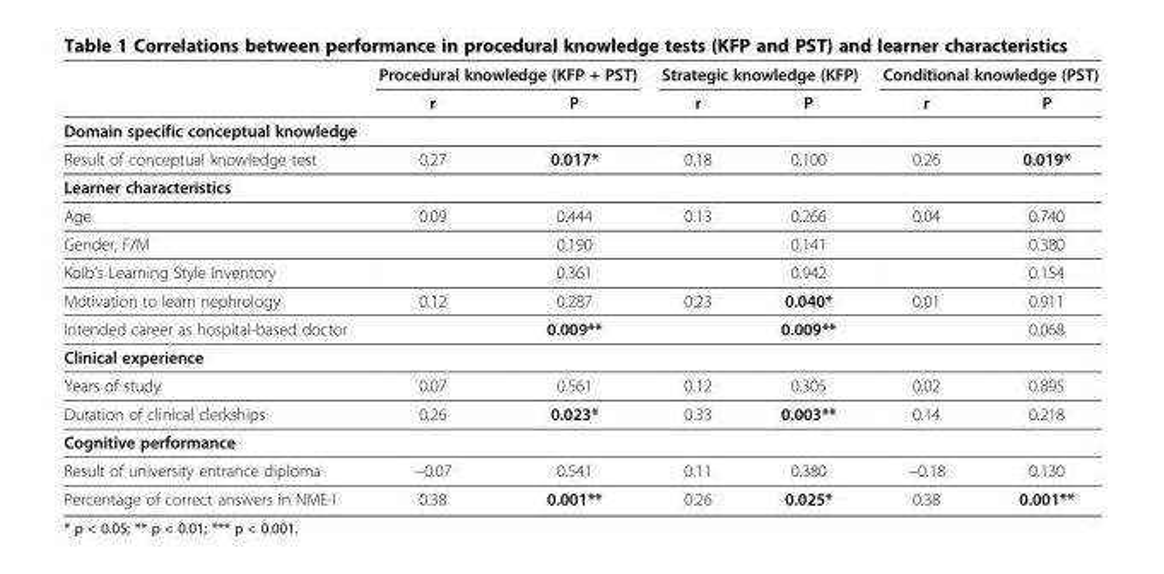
<table><thead><tr><td rowspan="2"></td><td colspan="2">Procedural knowledge (KFP + PST)</td><td colspan="2">Strategic knowledge (KFP)</td><td colspan="2">Conditional knowledge (PST)</td></tr><tr><td>r</td><td>P</td><td>r</td><td>P</td><td>r</td><td>P</td></tr></thead><tbody><tr><td colspan="7">Domain specific conceptual knowledge</td></tr><tr><td>Result of conceptual knowledge test</td><td>0.27</td><td>0.017*</td><td>0.18</td><td>0.100</td><td>0.26</td><td>0.019*</td></tr><tr><td colspan="7">Learner characteristics</td></tr><tr><td>Age</td><td>0.09</td><td>0.444</td><td>0.13</td><td>0.266</td><td>0.04</td><td>0.740</td></tr><tr><td>Gender, F/M</td><td></td><td>0.190</td><td></td><td>0.141</td><td></td><td>0.380</td></tr><tr><td>Kolb’s Learning Style Inventory</td><td></td><td>0.361</td><td></td><td>0.942</td><td></td><td>0.154</td></tr><tr><td>Motivation to learn nephrology</td><td>0.12</td><td>0.287</td><td>0.23</td><td>0.040*</td><td>0.01</td><td>0.911</td></tr><tr><td>Intended career as hospital-based doctor</td><td></td><td>0.009**</td><td></td><td>0.009**</td><td></td><td>0.068</td></tr><tr><td colspan="7">Clinical experience</td></tr><tr><td>Years of study</td><td>0.07</td><td>0.561</td><td>0.12</td><td>0.305</td><td>0.02</td><td>0.895</td></tr><tr><td>Duration of clinical clerkships</td><td>0.26</td><td>0.023*</td><td>0.33</td><td>0.003**</td><td>0.14</td><td>0.218</td></tr><tr><td colspan="7">Cognitive performance</td></tr><tr><td>Result of university entrance diploma</td><td>−0.07</td><td>0.541</td><td>0.11</td><td>0.380</td><td>−0.18</td><td>0.130</td></tr><tr><td>Percentage of correct answers in NME-I</td><td>0.38</td><td>0.001**</td><td>0.26</td><td>0.025*</td><td>0.38</td><td>0.001**</td></tr></tbody></table>